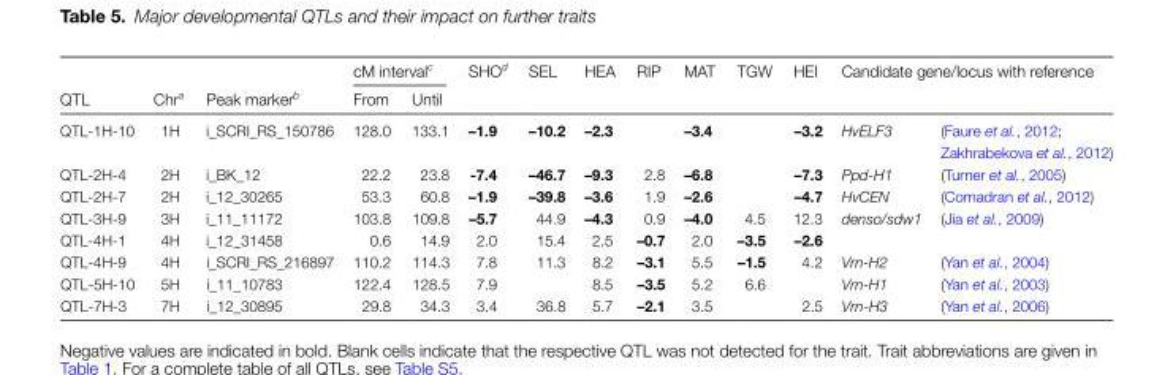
<table><thead><tr><td rowspan="3">QTL QTL-1H-10</td><td rowspan="3">Chr<sup>a</sup> 1H</td><td rowspan="3">Peak marker<sup>b</sup> i_SCRI_RS_150786</td><td colspan="2">cM interval<sup>c</sup></td><td rowspan="3">SHO<sup>d</sup> –1.9</td><td rowspan="3">SEL –10.2</td><td rowspan="3">HEA –2.3</td><td rowspan="3">RIP</td><td rowspan="3">MAT –3.4</td><td rowspan="3">TGW</td><td rowspan="3">HEI –3.2</td><td rowspan="2" colspan="2">Candidate gene/locus with reference</td></tr><tr><td rowspan="2">From 128.0</td><td rowspan="2">Until 133.1</td></tr><tr><td>HvELF3</td><td>(Faure et al., 2012; Zakhrabekova et al., 2012)</td></tr></thead><tbody><tr><td>QTL-2H-4</td><td>2H</td><td>i_BK_12</td><td>22.2</td><td>23.8</td><td>-7.4</td><td>–46.7</td><td>–9.3</td><td>2.8</td><td>–6.8</td><td></td><td>–7.3</td><td>Ppd-H1</td><td>(Turner et al., 2005)</td></tr><tr><td>QTL-2H-7</td><td>2H</td><td>i_12_30265</td><td>53.3</td><td>60.8</td><td>–1.9</td><td>–39.8</td><td>–3.6</td><td>1.9</td><td>–2.6</td><td></td><td>–4.7</td><td>HvCEN</td><td>(Comadran et al., 2012)</td></tr><tr><td>QTL-3H-9</td><td>3H</td><td>i_11_11172</td><td>103.8</td><td>109.8</td><td>–5.7</td><td>44.9</td><td>–4.3</td><td>0.9</td><td>–4.0</td><td>4.5</td><td>12.3</td><td>denso/sdw1</td><td>(Jia et al., 2009)</td></tr><tr><td>QTL-4H-1</td><td>4H</td><td>i_12_31458</td><td>0.6</td><td>14.9</td><td>2.0</td><td>15.4</td><td>2.5</td><td>–0.7</td><td>2.0</td><td>–3.5</td><td>–2.6</td><td></td><td></td></tr><tr><td>QTL-4H-9</td><td>4H</td><td>i_SCRI_RS_216897</td><td>110.2</td><td>114.3</td><td>7.8</td><td>11.3</td><td>8.2</td><td>–3.1</td><td>5.5</td><td>–1.5</td><td>4.2</td><td>Vrn-H2</td><td>(Yan et al., 2004)</td></tr><tr><td>QTL-5H-10</td><td>5H</td><td>i_11_10783</td><td>122.4</td><td>128.5</td><td>7.9</td><td></td><td>8.5</td><td>–3.5</td><td>5.2</td><td>6.6</td><td></td><td>Vrn-H1</td><td>(Yan et al., 2003)</td></tr><tr><td>QTL-7H-3</td><td>7H</td><td>i_12_30895</td><td>29.8</td><td>34.3</td><td>3.4</td><td>36.8</td><td>5.7</td><td>–2.1</td><td>3.5</td><td></td><td>2.5</td><td>Vrn-H3</td><td>(Yan et al., 2006)</td></tr></tbody></table>